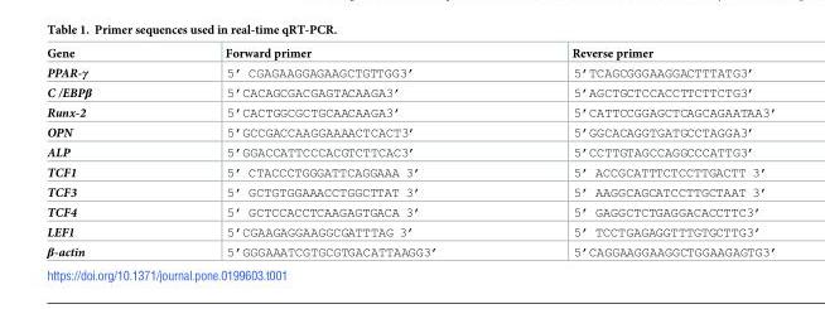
<table><thead><tr><td>Gene</td><td>Forward primer</td><td>Reverse primer</td></tr></thead><tbody><tr><td>PPAR-γ</td><td>5’ CGAGAAGGAGAAGCTGTTGG3’</td><td>5’TCAGCGGGAAGGACTTTATG3’</td></tr><tr><td>C /EBPβ</td><td>5’CACAGCGACGAGTACAAGA3’</td><td>5’AGCTGCTCCACCTTCTTCTG3’</td></tr><tr><td>Runx-2</td><td>5’CACTGGCGCTGCAACAAGA3’</td><td>5’CATTCCGGAGCTCAGCAGAATAA3’</td></tr><tr><td>OPN</td><td>5’GCCGACCAAGGAAAACTCACT3’</td><td>5’GGCACAGGTGATGCCTAGGA3’</td></tr><tr><td>ALP</td><td>5’GGACCATTCCCACGTCTTCAC3’</td><td>5’CCTTGTAGCCAGGCCCATTG3’</td></tr><tr><td>TCF1</td><td>5’ CTACCCTGGGATTCAGGAAA 3’</td><td>5’ ACCGCATTTCTCCTTGACTT 3’</td></tr><tr><td>TCF3</td><td>5’ GCTGTGGAAACCTGGCTTAT 3’</td><td>5’ AAGGCAGCATCCTTGCTAAT 3’</td></tr><tr><td>TCF4</td><td>5’ GCTCCACCTCAAGAGTGACA 3’</td><td>5’ GAGGCTCTGAGGACACCTTC3’</td></tr><tr><td>LEF1</td><td>5’CGAAGAGGAAGGCGATTTAG 3’</td><td>5’ TCCTGAGAGGTTTGTGCTTG3’</td></tr><tr><td>β-actin</td><td>5’GGGAAATCGTGCGTGACATTAAGG3’</td><td>5’CAGGAAGGAAGGCTGGAAGAGTG3’</td></tr></tbody></table>